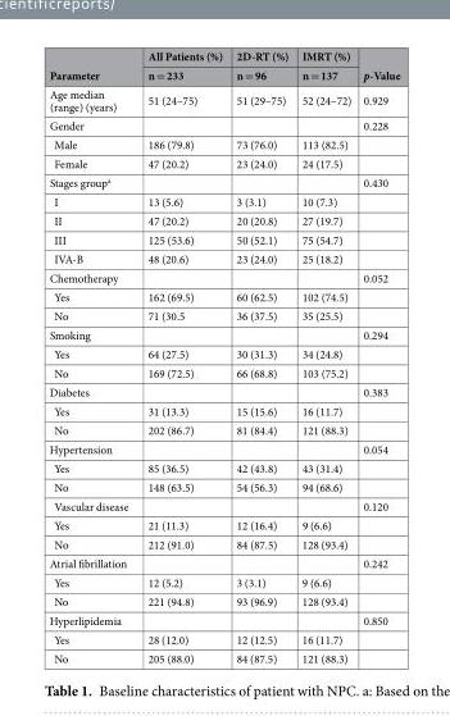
<table><thead><tr><td rowspan="2">Parameter</td><td rowspan="2">All Patients (%) n = 233</td><td rowspan="2">2D-RT (%) n = 96</td><td rowspan="2">IMRT (%) n = 137</td><td rowspan="2">p-Value</td></tr><tr></tr></thead><tbody><tr><td>Age median (range) (years)</td><td>51 (24–75)</td><td>51 (29–75)</td><td>52 (24–72)</td><td>0.929</td></tr><tr><td>Gender</td><td></td><td></td><td></td><td>0.228</td></tr><tr><td>Male</td><td>186 (79.8)</td><td>73 (76.0)</td><td>113 (82.5)</td><td></td></tr><tr><td>Female</td><td>47 (20.2)</td><td>23 (24.0)</td><td>24 (17.5)</td><td></td></tr><tr><td>Stages group<sup>a</sup></td><td></td><td></td><td></td><td>0.430</td></tr><tr><td>I</td><td>13 (5.6)</td><td>3 (3.1)</td><td>10 (7.3)</td><td></td></tr><tr><td>II</td><td>47 (20.2)</td><td>20 (20.8)</td><td>27 (19.7)</td><td></td></tr><tr><td>III</td><td>125 (53.6)</td><td>50 (52.1)</td><td>75 (54.7)</td><td></td></tr><tr><td>IVA-B</td><td>48 (20.6)</td><td>23 (24.0)</td><td>25 (18.2)</td><td></td></tr><tr><td>Chemotherapy</td><td></td><td></td><td></td><td>0.052</td></tr><tr><td>Yes</td><td>162 (69.5)</td><td>60 (62.5)</td><td>102 (74.5)</td><td></td></tr><tr><td>No</td><td>71 (30.5</td><td>36 (37.5)</td><td>35 (25.5)</td><td></td></tr><tr><td>Smoking</td><td></td><td></td><td></td><td>0.294</td></tr><tr><td>Yes</td><td>64 (27.5)</td><td>30 (31.3)</td><td>34 (24.8)</td><td></td></tr><tr><td>No</td><td>169 (72.5)</td><td>66 (68.8)</td><td>103 (75.2)</td><td></td></tr><tr><td>Diabetes</td><td></td><td></td><td></td><td>0.383</td></tr><tr><td>Yes</td><td>31 (13.3)</td><td>15 (15.6)</td><td>16 (11.7)</td><td></td></tr><tr><td>No</td><td>202 (86.7)</td><td>81 (84.4)</td><td>121 (88.3)</td><td></td></tr><tr><td>Hypertension</td><td></td><td></td><td></td><td>0.054</td></tr><tr><td>Yes</td><td>85 (36.5)</td><td>42 (43.8)</td><td>43 (31.4)</td><td></td></tr><tr><td>No</td><td>148 (63.5)</td><td>54 (56.3)</td><td>94 (68.6)</td><td></td></tr><tr><td>Vascular disease</td><td></td><td></td><td></td><td>0.120</td></tr><tr><td>Yes</td><td>21 (11.3)</td><td>12 (16.4)</td><td>9 (6.6)</td><td></td></tr><tr><td>No</td><td>212 (91.0)</td><td>84 (87.5)</td><td>128 (93.4)</td><td></td></tr><tr><td>Atrial fibrillation</td><td></td><td></td><td></td><td>0.242</td></tr><tr><td>Yes</td><td>12 (5.2)</td><td>3 (3.1)</td><td>9 (6.6)</td><td></td></tr><tr><td>No</td><td>221 (94.8)</td><td>93 (96.9)</td><td>128 (93.4)</td><td></td></tr><tr><td>Hyperlipidemia</td><td></td><td></td><td></td><td>0.850</td></tr><tr><td>Yes</td><td>28 (12.0)</td><td>12 (12.5)</td><td>16 (11.7)</td><td></td></tr><tr><td>No</td><td>205 (88.0)</td><td>84 (87.5)</td><td>121 (88.3)</td><td></td></tr></tbody></table>